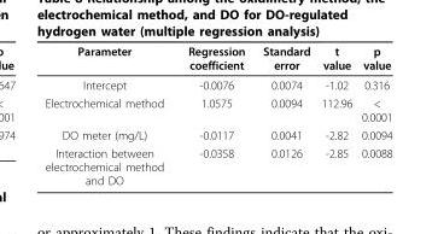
<table><thead><tr><td>Parameter</td><td>Regression coefficient</td><td>Standard error</td><td>t value</td><td>p value</td></tr></thead><tbody><tr><td>Intercept</td><td>-0.0076</td><td>0.0074</td><td>-1.02</td><td>0.316</td></tr><tr><td>Electrochemical method</td><td>1.0575</td><td>0.0094</td><td>112.96</td><td>&lt; 0.0001</td></tr><tr><td>DO meter (mg/L)</td><td>-0.0117</td><td>0.0041</td><td>-2.82</td><td>0.0094</td></tr><tr><td>Interaction between electrochemical method and DO</td><td>-0.0358</td><td>0.0126</td><td>-2.85</td><td>0.0088</td></tr></tbody></table>